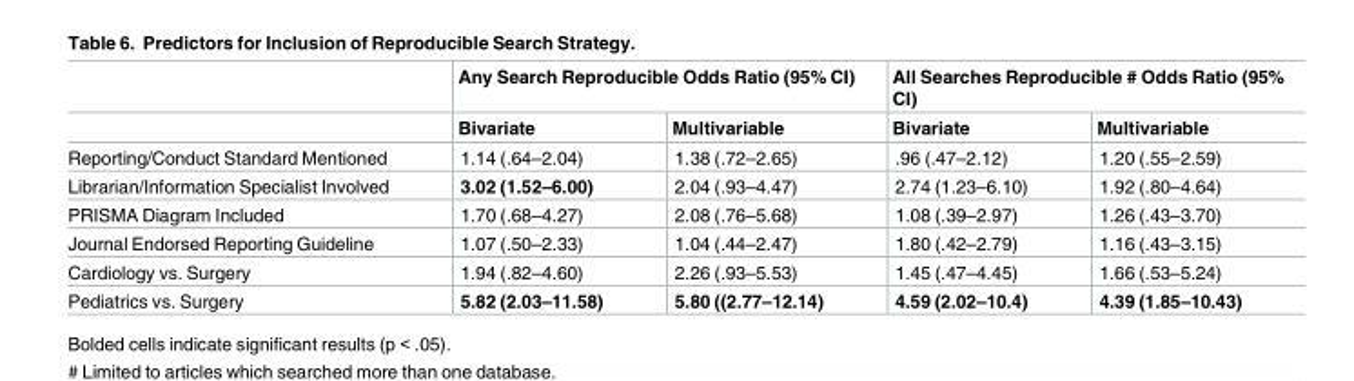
<table><thead><tr><td rowspan="2"></td><td colspan="2">Any Search Reproducible Odds Ratio (95% CI)</td><td colspan="2">All Searches Reproducible # Odds Ratio (95% CI)</td></tr><tr><td>Bivariate</td><td>Multivariable</td><td>Bivariate</td><td>Multivariable</td></tr></thead><tbody><tr><td>Reporting/Conduct Standard Mentioned</td><td>1.14 (.64–2.04)</td><td>1.38 (.72–2.65)</td><td>.96 (.47–2.12)</td><td>1.20 (.55–2.59)</td></tr><tr><td>Librarian/Information Specialist Involved</td><td>3.02 (1.52–6.00)</td><td>2.04 (.93–4.47)</td><td>2.74 (1.23–6.10)</td><td>1.92 (.80–4.64)</td></tr><tr><td>PRISMA Diagram Included</td><td>1.70 (.68–4.27)</td><td>2.08 (.76–5.68)</td><td>1.08 (.39–2.97)</td><td>1.26 (.43–3.70)</td></tr><tr><td>Journal Endorsed Reporting Guideline</td><td>1.07 (.50–2.33)</td><td>1.04 (.44–2.47)</td><td>1.80 (.42–2.79)</td><td>1.16 (.43–3.15)</td></tr><tr><td>Cardiology vs. Surgery</td><td>1.94 (.82–4.60)</td><td>2.26 (.93–5.53)</td><td>1.45 (.47–4.45)</td><td>1.66 (.53–5.24)</td></tr><tr><td>Pediatrics vs. Surgery</td><td>5.82 (2.03–11.58)</td><td>5.80 ((2.77–12.14)</td><td>4.59 (2.02–10.4)</td><td>4.39 (1.85–10.43)</td></tr></tbody></table>